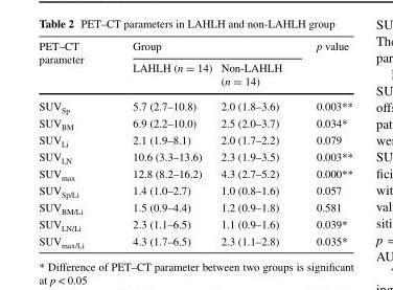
<table><thead><tr><td rowspan="2">PET–CT parameter</td><td colspan="2">Group</td><td rowspan="2">p value</td></tr><tr><td>LAHLH (n = 14)</td><td>Non-LAHLH (n = 14)</td></tr></thead><tbody><tr><td>SUV<sub>Sp</sub></td><td>5.7 (2.7–10.8)</td><td>2.0 (1.8–3.6)</td><td>0.003**</td></tr><tr><td>SUV<sub>BM</sub></td><td>6.9 (2.2–10.0)</td><td>2.5 (2.0–3.7)</td><td>0.034*</td></tr><tr><td>SUV<sub>Li</sub></td><td>2.1 (1.9–8.1)</td><td>2.0 (1.7–2.2)</td><td>0.079</td></tr><tr><td>SUV<sub>LN</sub></td><td>10.6 (3.3–13.6)</td><td>2.3 (1.9–3.5)</td><td>0.003**</td></tr><tr><td>SUV<sub>max</sub></td><td>12.8 (8.2–16.2)</td><td>4.3 (2.7–5.2)</td><td>0.000**</td></tr><tr><td>SUV<sub>Sp/Li</sub></td><td>1.4 (1.0–2.7)</td><td>1.0 (0.8–1.6)</td><td>0.057</td></tr><tr><td>SUV<sub>BM/Li</sub></td><td>1.5 (0.9–4.4)</td><td>1.2 (0.9–1.8)</td><td>0.581</td></tr><tr><td>SUV<sub>LN/Li</sub></td><td>2.3 (1.1–6.5)</td><td>1.1 (0.9–1.6)</td><td>0.039*</td></tr><tr><td>SUV<sub>max/Li</sub></td><td>4.3 (1.7–6.5)</td><td>2.3 (1.1–2.8)</td><td>0.035*</td></tr></tbody></table>